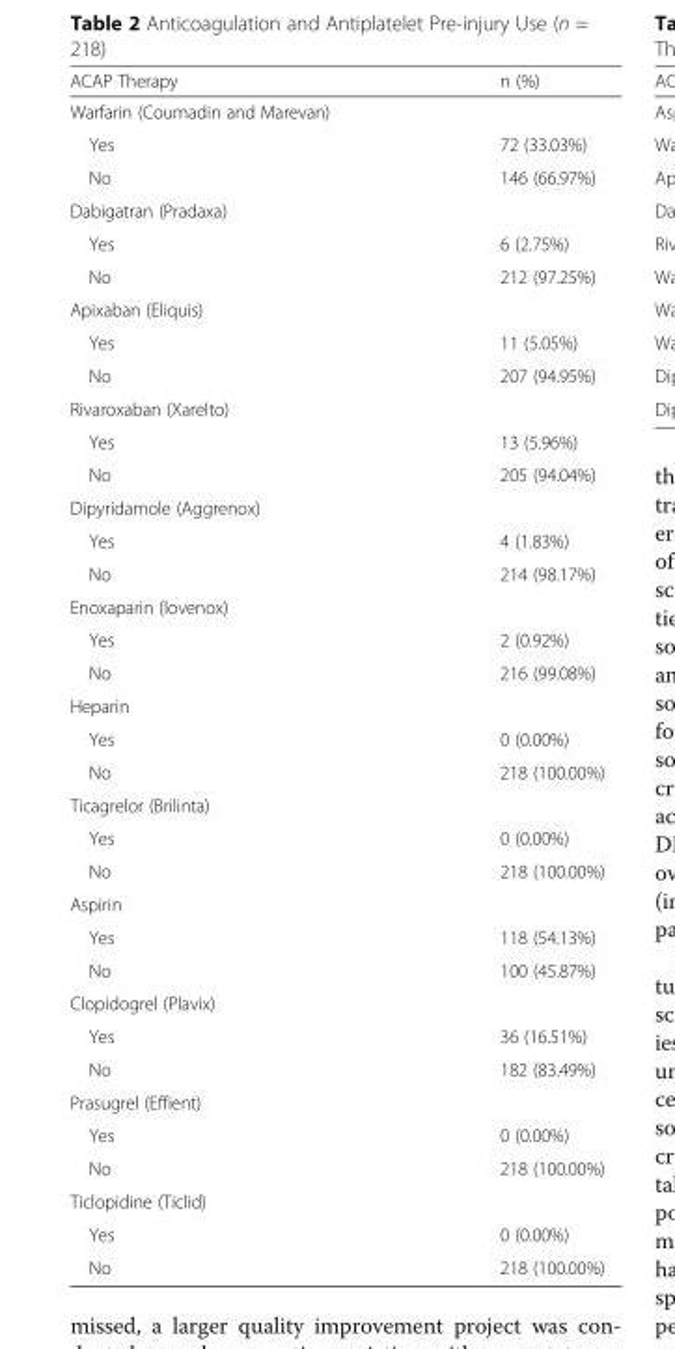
<table><thead><tr><td>ACAP Therapy</td><td>n (%)</td></tr></thead><tbody><tr><td colspan="2">Warfarin (Coumadin and Marevan)</td></tr><tr><td>Yes</td><td>72 (33.03%)</td></tr><tr><td>No</td><td>146 (66.97%)</td></tr><tr><td colspan="2">Dabigatran (Pradaxa)</td></tr><tr><td>Yes</td><td>6 (2.75%)</td></tr><tr><td>No</td><td>212 (97.25%)</td></tr><tr><td colspan="2">Apixaban (Eliquis)</td></tr><tr><td>Yes</td><td>11 (5.05%)</td></tr><tr><td>No</td><td>207 (94.95%)</td></tr><tr><td colspan="2">Rivaroxaban (Xarelto)</td></tr><tr><td>Yes</td><td>13 (5.96%)</td></tr><tr><td>No</td><td>205 (94.04%)</td></tr><tr><td colspan="2">Dipyridamole (Aggrenox)</td></tr><tr><td>Yes</td><td>4 (1.83%)</td></tr><tr><td>No</td><td>214 (98.17%)</td></tr><tr><td colspan="2">Enoxaparin (lovenox)</td></tr><tr><td>Yes</td><td>2 (0.92%)</td></tr><tr><td>No</td><td>216 (99.08%)</td></tr><tr><td colspan="2">Heparin</td></tr><tr><td>Yes</td><td>0 (0.00%)</td></tr><tr><td>No</td><td>218 (100.00%)</td></tr><tr><td colspan="2">Ticagrelor (Brilinta)</td></tr><tr><td>Yes</td><td>0 (0.00%)</td></tr><tr><td>No</td><td>218 (100.00%)</td></tr><tr><td colspan="2">Aspirin</td></tr><tr><td>Yes</td><td>118 (54.13%)</td></tr><tr><td>No</td><td>100 (45.87%)</td></tr><tr><td colspan="2">Clopidogrel (Plavix)</td></tr><tr><td>Yes</td><td>36 (16.51%)</td></tr><tr><td>No</td><td>182 (83.49%)</td></tr><tr><td colspan="2">Prasugrel (Effient)</td></tr><tr><td>Yes</td><td>0 (0.00%)</td></tr><tr><td>No</td><td>218 (100.00%)</td></tr><tr><td colspan="2">Ticlopidine (Ticlid)</td></tr><tr><td>Yes</td><td>0 (0.00%)</td></tr><tr><td>No</td><td>218 (100.00%)</td></tr></tbody></table>